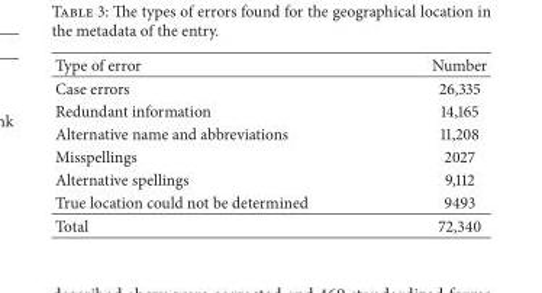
<table><thead><tr><td>Type of error</td><td>Number</td></tr></thead><tbody><tr><td>Case errors</td><td>26,335</td></tr><tr><td>Redundant information</td><td>14,165</td></tr><tr><td>Alternative name and abbreviations</td><td>11,208</td></tr><tr><td>Misspellings</td><td>2027</td></tr><tr><td>Alternative spellings</td><td>9,112</td></tr><tr><td>True location could not be determined</td><td>9493</td></tr><tr><td>Total</td><td>72,340</td></tr></tbody></table>